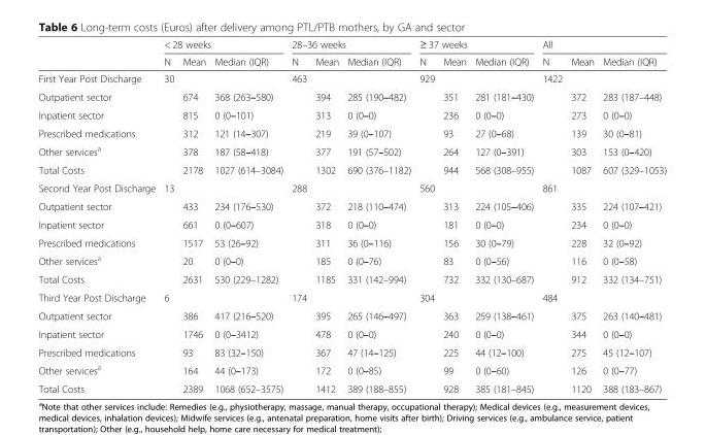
<table><thead><tr><td rowspan="2"></td><td colspan="3">&lt; 28 weeks</td><td colspan="3">28–36 weeks</td><td colspan="3">≥ 37 weeks</td><td colspan="3">All</td></tr><tr><td>N</td><td>Mean</td><td>Median (IQR)</td><td>N</td><td>Mean</td><td>Median (IQR)</td><td>N</td><td>Mean</td><td>Median (IQR)</td><td>N</td><td>Mean</td><td>Median (IQR)</td></tr></thead><tbody><tr><td>First Year Post Discharge</td><td>30</td><td></td><td></td><td>463</td><td></td><td></td><td>929</td><td></td><td></td><td>1422</td><td></td><td></td></tr><tr><td>Outpatient sector</td><td></td><td>674</td><td>368 (263–580)</td><td></td><td>394</td><td>285 (190–482)</td><td></td><td>351</td><td>281 (181–430)</td><td></td><td>372</td><td>283 (187–448)</td></tr><tr><td>Inpatient sector</td><td></td><td>815</td><td>0 (0–101)</td><td></td><td>313</td><td>0 (0–0)</td><td></td><td>236</td><td>0 (0–0)</td><td></td><td>273</td><td>0 (0–0)</td></tr><tr><td>Prescribed medications</td><td></td><td>312</td><td>121 (14–307)</td><td></td><td>219</td><td>39 (0–107)</td><td></td><td>93</td><td>27 (0–68)</td><td></td><td>139</td><td>30 (0–81)</td></tr><tr><td>Other services<sup>a</sup></td><td></td><td>378</td><td>187 (58–418)</td><td></td><td>377</td><td>191 (57–502)</td><td></td><td>264</td><td>127 (0–391)</td><td></td><td>303</td><td>153 (0–420)</td></tr><tr><td>Total Costs</td><td></td><td>2178</td><td>1027 (614–3084)</td><td></td><td>1302</td><td>690 (376–1182)</td><td></td><td>944</td><td>568 (308–955)</td><td></td><td>1087</td><td>607 (329–1053)</td></tr><tr><td>Second Year Post Discharge</td><td>13</td><td></td><td></td><td>288</td><td></td><td></td><td>560</td><td></td><td></td><td>861</td><td></td><td></td></tr><tr><td>Outpatient sector</td><td></td><td>433</td><td>234 (176–530)</td><td></td><td>372</td><td>218 (110–474)</td><td></td><td>313</td><td>224 (105–406)</td><td></td><td>335</td><td>224 (107–421)</td></tr><tr><td>Inpatient sector</td><td></td><td>661</td><td>0 (0–607)</td><td></td><td>318</td><td>0 (0–0)</td><td></td><td>181</td><td>0 (0–0)</td><td></td><td>234</td><td>0 (0–0)</td></tr><tr><td>Prescribed medications</td><td></td><td>1517</td><td>53 (26–92)</td><td></td><td>311</td><td>36 (0–116)</td><td></td><td>156</td><td>30 (0–79)</td><td></td><td>228</td><td>32 (0–92)</td></tr><tr><td>Other services<sup>a</sup></td><td></td><td>20</td><td>0 (0–0)</td><td></td><td>185</td><td>0 (0–76)</td><td></td><td>83</td><td>0 (0–56)</td><td></td><td>116</td><td>0 (0–58)</td></tr><tr><td>Total Costs</td><td></td><td>2631</td><td>530 (229–1282)</td><td></td><td>1185</td><td>331 (142–994)</td><td></td><td>732</td><td>332 (130–687)</td><td></td><td>912</td><td>332 (134–751)</td></tr><tr><td>Third Year Post Discharge</td><td>6</td><td></td><td></td><td>174</td><td></td><td></td><td>304</td><td></td><td></td><td>484</td><td></td><td></td></tr><tr><td>Outpatient sector</td><td></td><td>386</td><td>417 (216–520)</td><td></td><td>395</td><td>265 (146–497)</td><td></td><td>363</td><td>259 (138–461)</td><td></td><td>375</td><td>263 (140–481)</td></tr><tr><td>Inpatient sector</td><td></td><td>1746</td><td>0 (0–3412)</td><td></td><td>478</td><td>0 (0–0)</td><td></td><td>240</td><td>0 (0–0)</td><td></td><td>344</td><td>0 (0–0)</td></tr><tr><td>Prescribed medications</td><td></td><td>93</td><td>83 (32–150)</td><td></td><td>367</td><td>47 (14–125)</td><td></td><td>225</td><td>44 (12–100)</td><td></td><td>275</td><td>45 (12–107)</td></tr><tr><td>Other services<sup>a</sup></td><td></td><td>164</td><td>44 (0–173)</td><td></td><td>172</td><td>0 (0–85)</td><td></td><td>99</td><td>0 (0–60)</td><td></td><td>126</td><td>0 (0–77)</td></tr><tr><td>Total Costs</td><td></td><td>2389</td><td>1068 (652–3575)</td><td></td><td>1412</td><td>389 (188–855)</td><td></td><td>928</td><td>385 (181–845)</td><td></td><td>1120</td><td>388 (183–867)</td></tr></tbody></table>